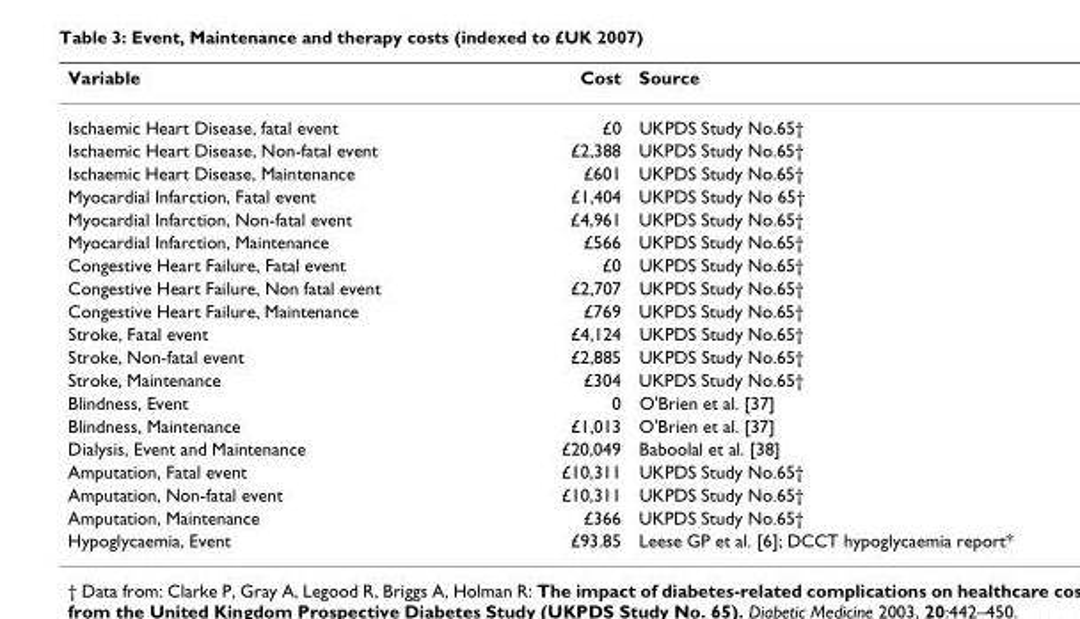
<table><thead><tr><td>Variable</td><td>Cost</td><td>Source</td></tr></thead><tbody><tr><td>Ischaemic Heart Disease, fatal event</td><td>£0</td><td>UKPDS Study No.65†</td></tr><tr><td>Ischaemic Heart Disease, Non-fatal event</td><td>£2,388</td><td>UKPDS Study No.65†</td></tr><tr><td>Ischaemic Heart Disease, Maintenance</td><td>£601</td><td>UKPDS Study No.65†</td></tr><tr><td>Myocardial Infarction, Fatal event</td><td>£1,404</td><td>UKPDS Study No 65†</td></tr><tr><td>Myocardial Infarction, Non-fatal event</td><td>£4,961</td><td>UKPDS Study No.65†</td></tr><tr><td>Myocardial Infarction, Maintenance</td><td>£566</td><td>UKPDS Study No.65†</td></tr><tr><td>Congestive Heart Failure, Fatal event</td><td>£0</td><td>UKPDS Study No.65†</td></tr><tr><td>Congestive Heart Failure, Non fatal event</td><td>£2,707</td><td>UKPDS Study No.65†</td></tr><tr><td>Congestive Heart Failure, Maintenance</td><td>£769</td><td>UKPDS Study No.65†</td></tr><tr><td>Stroke, Fatal event</td><td>£4,124</td><td>UKPDS Study No.65†</td></tr><tr><td>Stroke, Non-fatal event</td><td>£2,885</td><td>UKPDS Study No.65†</td></tr><tr><td>Stroke, Maintenance</td><td>£304</td><td>UKPDS Study No.65†</td></tr><tr><td>Blindness, Event</td><td>0</td><td>O&#x27;Brien et al. [37]</td></tr><tr><td>Blindness, Maintenance</td><td>£1,013</td><td>O&#x27;Brien et al. [37]</td></tr><tr><td>Dialysis, Event and Maintenance</td><td>£20,049</td><td>Baboolal et al. [38]</td></tr><tr><td>Amputation, Fatal event</td><td>£10,311</td><td>UKPDS Study No.65†</td></tr><tr><td>Amputation, Non-fatal event</td><td>£10,311</td><td>UKPDS Study No.65†</td></tr><tr><td>Amputation, Maintenance</td><td>£366</td><td>UKPDS Study No.65†</td></tr><tr><td>Hypoglycaemia, Event</td><td>£93.85</td><td>Leese GP et al. [6]; DCCT hypoglycaemia report*</td></tr></tbody></table>